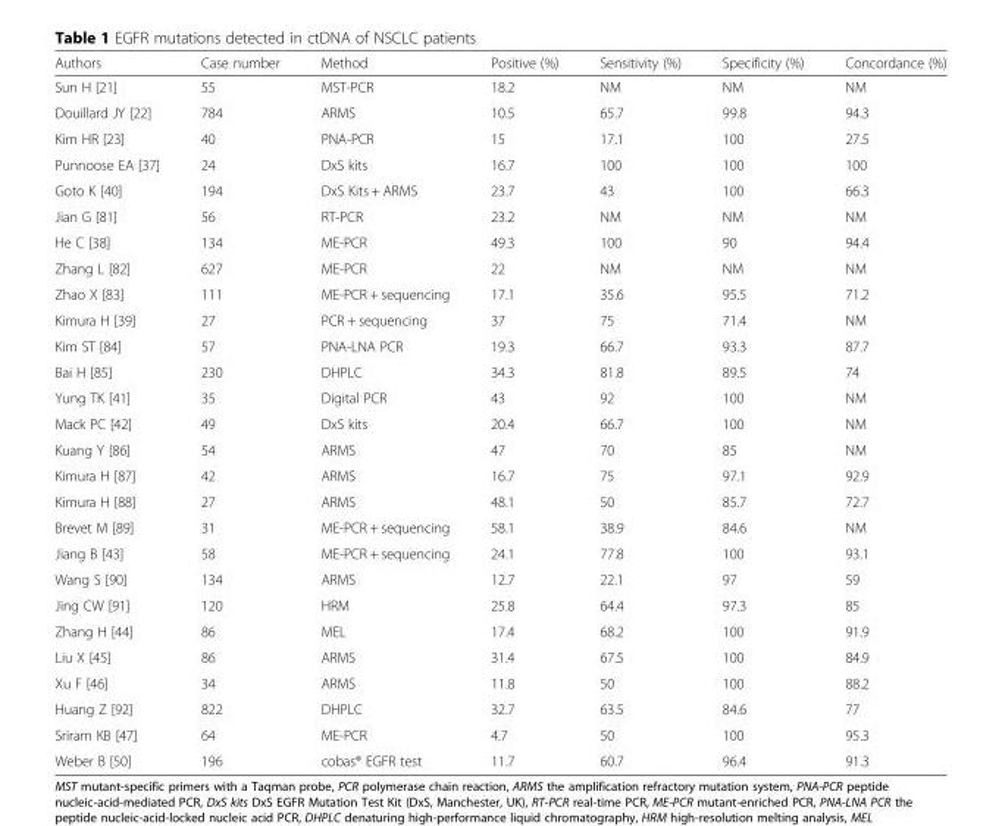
<table><thead><tr><td>Authors</td><td>Case number</td><td>Method</td><td>Positive (%)</td><td>Sensitivity (%)</td><td>Specificity (%)</td><td>Concordance (%)</td></tr></thead><tbody><tr><td>Sun H [21]</td><td>55</td><td>MST-PCR</td><td>18.2</td><td>NM</td><td>NM</td><td>NM</td></tr><tr><td>Douillard JY [22]</td><td>784</td><td>ARMS</td><td>10.5</td><td>65.7</td><td>99.8</td><td>94.3</td></tr><tr><td>Kim HR [23]</td><td>40</td><td>PNA-PCR</td><td>15</td><td>17.1</td><td>100</td><td>27.5</td></tr><tr><td>Punnoose EA [37]</td><td>24</td><td>DxS kits</td><td>16.7</td><td>100</td><td>100</td><td>100</td></tr><tr><td>Goto K [40]</td><td>194</td><td>DxS Kits + ARMS</td><td>23.7</td><td>43</td><td>100</td><td>66.3</td></tr><tr><td>Jian G [81]</td><td>56</td><td>RT-PCR</td><td>23.2</td><td>NM</td><td>NM</td><td>NM</td></tr><tr><td>He C [38]</td><td>134</td><td>ME-PCR</td><td>49.3</td><td>100</td><td>90</td><td>94.4</td></tr><tr><td>Zhang L [82]</td><td>627</td><td>ME-PCR</td><td>22</td><td>NM</td><td>NM</td><td>NM</td></tr><tr><td>Zhao X [83]</td><td>111</td><td>ME-PCR + sequencing</td><td>17.1</td><td>35.6</td><td>95.5</td><td>71.2</td></tr><tr><td>Kimura H [39]</td><td>27</td><td>PCR + sequencing</td><td>37</td><td>75</td><td>71.4</td><td>NM</td></tr><tr><td>Kim ST [84]</td><td>57</td><td>PNA-LNA PCR</td><td>19.3</td><td>66.7</td><td>93.3</td><td>87.7</td></tr><tr><td>Bai H [85]</td><td>230</td><td>DHPLC</td><td>34.3</td><td>81.8</td><td>89.5</td><td>74</td></tr><tr><td>Yung TK [41]</td><td>35</td><td>Digital PCR</td><td>43</td><td>92</td><td>100</td><td>NM</td></tr><tr><td>Mack PC [42]</td><td>49</td><td>DxS kits</td><td>20.4</td><td>66.7</td><td>100</td><td>NM</td></tr><tr><td>Kuang Y [86]</td><td>54</td><td>ARMS</td><td>47</td><td>70</td><td>85</td><td>NM</td></tr><tr><td>Kimura H [87]</td><td>42</td><td>ARMS</td><td>16.7</td><td>75</td><td>97.1</td><td>92.9</td></tr><tr><td>Kimura H [88]</td><td>27</td><td>ARMS</td><td>48.1</td><td>50</td><td>85.7</td><td>72.7</td></tr><tr><td>Brevet M [89]</td><td>31</td><td>ME-PCR + sequencing</td><td>58.1</td><td>38.9</td><td>84.6</td><td>NM</td></tr><tr><td>Jiang B [43]</td><td>58</td><td>ME-PCR + sequencing</td><td>24.1</td><td>77.8</td><td>100</td><td>93.1</td></tr><tr><td>Wang S [90]</td><td>134</td><td>ARMS</td><td>12.7</td><td>22.1</td><td>97</td><td>59</td></tr><tr><td>Jing CW [91]</td><td>120</td><td>HRM</td><td>25.8</td><td>64.4</td><td>97.3</td><td>85</td></tr><tr><td>Zhang H [44]</td><td>86</td><td>MEL</td><td>17.4</td><td>68.2</td><td>100</td><td>91.9</td></tr><tr><td>Liu X [45]</td><td>86</td><td>ARMS</td><td>31.4</td><td>67.5</td><td>100</td><td>84.9</td></tr><tr><td>Xu F [46]</td><td>34</td><td>ARMS</td><td>11.8</td><td>50</td><td>100</td><td>88.2</td></tr><tr><td>Huang Z [92]</td><td>822</td><td>DHPLC</td><td>32.7</td><td>63.5</td><td>84.6</td><td>77</td></tr><tr><td>Sriram KB [47]</td><td>64</td><td>ME-PCR</td><td>4.7</td><td>50</td><td>100</td><td>95.3</td></tr><tr><td>Weber B [50]</td><td>196</td><td>cobas® EGFR test</td><td>11.7</td><td>60.7</td><td>96.4</td><td>91.3</td></tr></tbody></table>